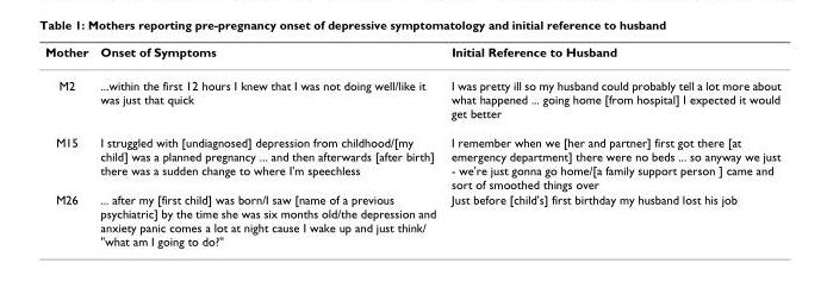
<table><thead><tr><td>Mother</td><td>Onset of Symptoms</td><td>Initial Reference to Husband</td></tr></thead><tbody><tr><td>M2</td><td>...within the first 12 hours I knew that I was not doing well/like it was just that quick</td><td>I was pretty ill so my husband could probably tell a lot more about what happened ... going home [from hospital] I expected it would get better</td></tr><tr><td>M15</td><td>I struggled with [undiagnosed] depression from childhood/[my child] was a planned pregnancy ... and then afterwards [after birth] there was a sudden change to where I&#x27;m speechless</td><td>I remember when we [her and partner] first got there [at emergency department] there were no beds ... so anyway we just - we&#x27;re just gonna go home/[a family support person ] came and sort of smoothed things over</td></tr><tr><td>M26</td><td>... after my [first child] was born/I saw [name of a previous psychiatric] by the time she was six months old/the depression and anxiety panic comes a lot at night cause I wake up and just think/ &quot;what am I going to do?&quot;</td><td>Just before [child&#x27;s] first birthday my husband lost his job</td></tr></tbody></table>